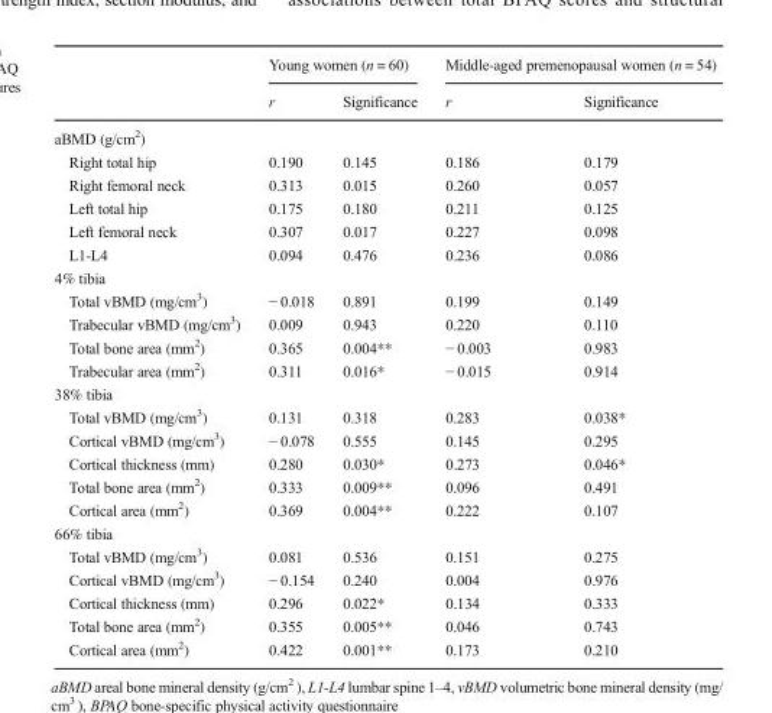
<table><thead><tr><td rowspan="2"></td><td colspan="2">Young women (n = 60)</td><td colspan="2">Middle-aged premenopausal women (n = 54)</td></tr><tr><td>r</td><td>Significance</td><td>r</td><td>Significance</td></tr></thead><tbody><tr><td colspan="5">aBMD (g/cm<sup>2</sup>)</td></tr><tr><td>Right total hip</td><td>0.190</td><td>0.145</td><td>0.186</td><td>0.179</td></tr><tr><td>Right femoral neck</td><td>0.313</td><td>0.015</td><td>0.260</td><td>0.057</td></tr><tr><td>Left total hip</td><td>0.175</td><td>0.180</td><td>0.211</td><td>0.125</td></tr><tr><td>Left femoral neck</td><td>0.307</td><td>0.017</td><td>0.227</td><td>0.098</td></tr><tr><td>L1-L4</td><td>0.094</td><td>0.476</td><td>0.236</td><td>0.086</td></tr><tr><td colspan="5">4% tibia</td></tr><tr><td>Total vBMD (mg/cm<sup>3</sup>)</td><td>− 0.018</td><td>0.891</td><td>0.199</td><td>0.149</td></tr><tr><td>Trabecular vBMD (mg/cm<sup>3</sup>)</td><td>0.009</td><td>0.943</td><td>0.220</td><td>0.110</td></tr><tr><td>Total bone area (mm<sup>2</sup>)</td><td>0.365</td><td>0.004**</td><td>− 0.003</td><td>0.983</td></tr><tr><td>Trabecular area (mm<sup>2</sup>)</td><td>0.311</td><td>0.016*</td><td>− 0.015</td><td>0.914</td></tr><tr><td colspan="5">38% tibia</td></tr><tr><td>Total vBMD (mg/cm<sup>3</sup>)</td><td>0.131</td><td>0.318</td><td>0.283</td><td>0.038*</td></tr><tr><td>Cortical vBMD (mg/cm<sup>3</sup>)</td><td>− 0.078</td><td>0.555</td><td>0.145</td><td>0.295</td></tr><tr><td>Cortical thickness (mm)</td><td>0.280</td><td>0.030*</td><td>0.273</td><td>0.046*</td></tr><tr><td>Total bone area (mm<sup>2</sup>)</td><td>0.333</td><td>0.009**</td><td>0.096</td><td>0.491</td></tr><tr><td>Cortical area (mm<sup>2</sup>)</td><td>0.369</td><td>0.004**</td><td>0.222</td><td>0.107</td></tr><tr><td colspan="5">66% tibia</td></tr><tr><td>Total vBMD (mg/cm<sup>3</sup>)</td><td>0.081</td><td>0.536</td><td>0.151</td><td>0.275</td></tr><tr><td>Cortical vBMD (mg/cm<sup>3</sup>)</td><td>− 0.154</td><td>0.240</td><td>0.004</td><td>0.976</td></tr><tr><td>Cortical thickness (mm)</td><td>0.296</td><td>0.022*</td><td>0.134</td><td>0.333</td></tr><tr><td>Total bone area (mm<sup>2</sup>)</td><td>0.355</td><td>0.005**</td><td>0.046</td><td>0.743</td></tr><tr><td>Cortical area (mm<sup>2</sup>)</td><td>0.422</td><td>0.001**</td><td>0.173</td><td>0.210</td></tr></tbody></table>